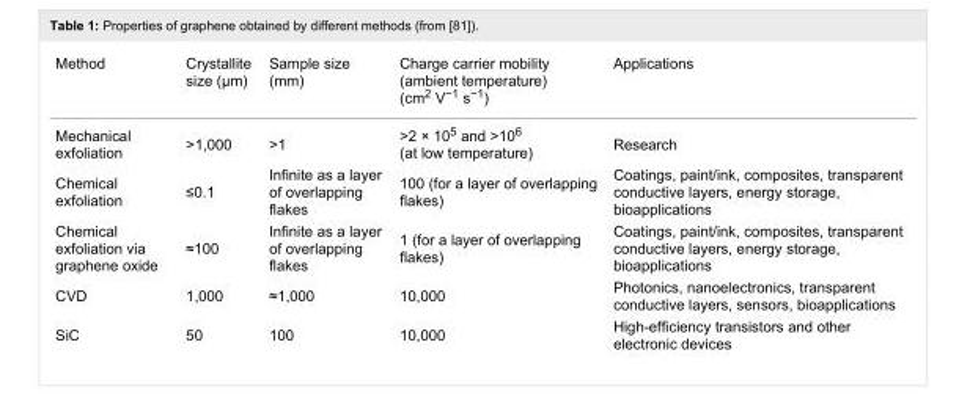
<table><tbody><tr><td>Method</td><td>Crystallite size (µm)</td><td>Sample size (mm)</td><td>Charge carrier mobility (ambient temperature) (cm<sup>2</sup> V<sup>−1</sup> s<sup>−1</sup>)</td><td>Applications</td></tr><tr><td>Mechanical exfoliation</td><td>&gt;1,000</td><td>&gt;1</td><td>&gt;2 × 10<sup>5</sup> and &gt;10<sup>6</sup> (at low temperature)</td><td>Research</td></tr><tr><td>Chemical exfoliation</td><td>≤0.1</td><td>Infinite as a layer of overlapping flakes</td><td>100 (for a layer of overlapping flakes)</td><td>Coatings, paint/ink, composites, transparent conductive layers, energy storage, bioapplications</td></tr><tr><td>Chemical exfoliation via graphene oxide</td><td>≈100</td><td>Infinite as a layer of overlapping flakes</td><td>1 (for a layer of overlapping flakes)</td><td>Coatings, paint/ink, composites, transparent conductive layers, energy storage, bioapplications</td></tr><tr><td>CVD</td><td>1,000</td><td>≈1,000</td><td>10,000</td><td>Photonics, nanoelectronics, transparent conductive layers, sensors, bioapplications</td></tr><tr><td>SiC</td><td>50</td><td>100</td><td>10,000</td><td>High-efficiency transistors and other electronic devices</td></tr></tbody></table>